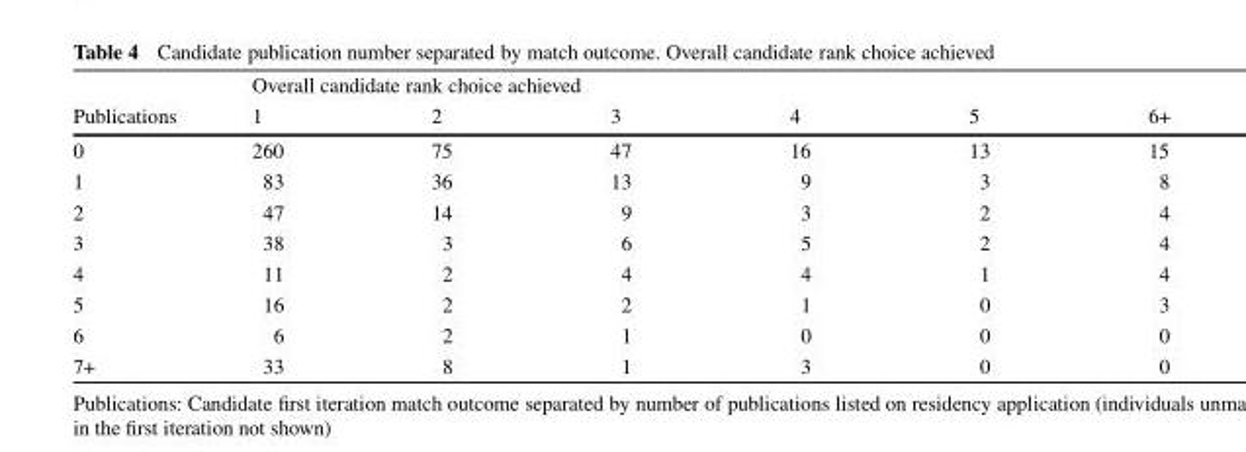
<table><thead><tr><td rowspan="2">Publications</td><td colspan="6">Overall candidate rank choice achieved</td></tr><tr><td>1</td><td>2</td><td>3</td><td>4</td><td>5</td><td>6+</td></tr></thead><tbody><tr><td>0</td><td>260</td><td>75</td><td>47</td><td>16</td><td>13</td><td>15</td></tr><tr><td>1</td><td>83</td><td>36</td><td>13</td><td>9</td><td>3</td><td>8</td></tr><tr><td>2</td><td>47</td><td>14</td><td>9</td><td>3</td><td>2</td><td>4</td></tr><tr><td>3</td><td>38</td><td>3</td><td>6</td><td>5</td><td>2</td><td>4</td></tr><tr><td>4</td><td>11</td><td>2</td><td>4</td><td>4</td><td>1</td><td>4</td></tr><tr><td>5</td><td>16</td><td>2</td><td>2</td><td>1</td><td>0</td><td>3</td></tr><tr><td>6</td><td>6</td><td>2</td><td>1</td><td>0</td><td>0</td><td>0</td></tr><tr><td>7+</td><td>33</td><td>8</td><td>1</td><td>3</td><td>0</td><td>0</td></tr></tbody></table>